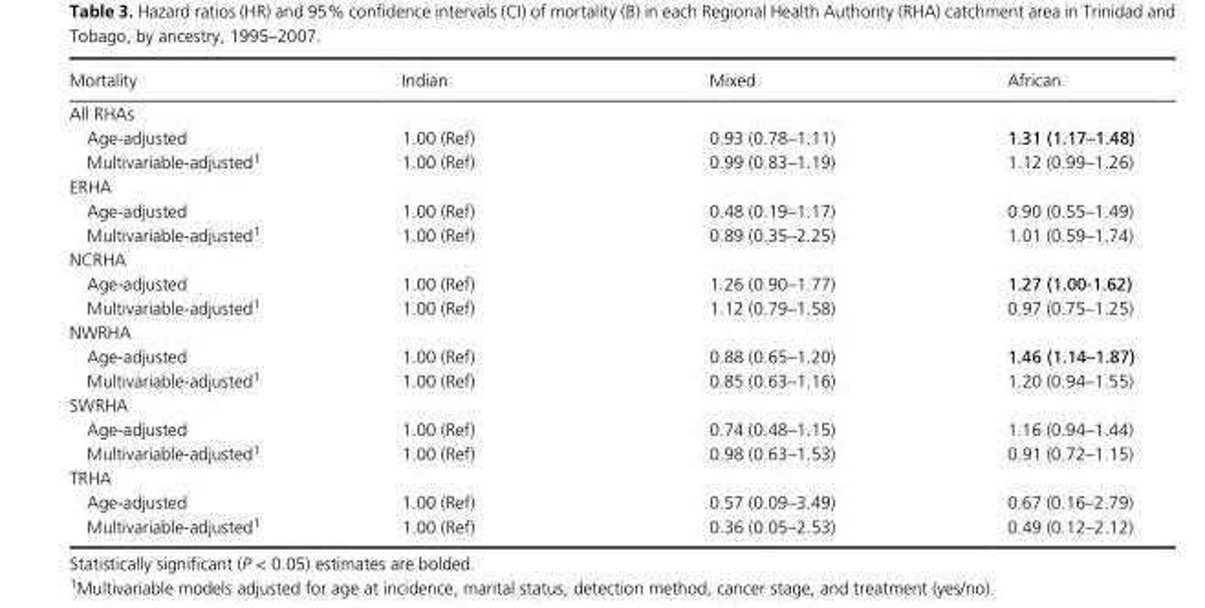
<table><thead><tr><td>Mortality</td><td>Indian</td><td>Mixed</td><td>African</td></tr></thead><tbody><tr><td colspan="4">All RHAs</td></tr><tr><td>Age- adjusted</td><td>1.00 (Ref)</td><td>0.93 (0.78–1.11)</td><td>1.31 (1.17–1.48)</td></tr><tr><td>Multivariable- adjusted1</td><td>1.00 (Ref)</td><td>0.99 (0.83–1.19)</td><td>1.12 (0.99–1.26)</td></tr><tr><td colspan="4">ERHA</td></tr><tr><td>Age- adjusted</td><td>1.00 (Ref)</td><td>0.48 (0.19–1.17)</td><td>0.90 (0.55–1.49)</td></tr><tr><td>Multivariable- adjusted1</td><td>1.00 (Ref)</td><td>0.89 (0.35–2.25)</td><td>1.01 (0.59–1.74)</td></tr><tr><td colspan="4">NCRHA</td></tr><tr><td>Age- adjusted</td><td>1.00 (Ref)</td><td>1.26 (0.90–1.77)</td><td>1.27 (1.00-1.62)</td></tr><tr><td>Multivariable- adjusted1</td><td>1.00 (Ref)</td><td>1.12 (0.79–1.58)</td><td>0.97 (0.75–1.25)</td></tr><tr><td colspan="4">NWRHA</td></tr><tr><td>Age- adjusted</td><td>1.00 (Ref)</td><td>0.88 (0.65–1.20)</td><td>1.46 (1.14–1.87)</td></tr><tr><td>Multivariable- adjusted1</td><td>1.00 (Ref)</td><td>0.85 (0.63–1.16)</td><td>1.20 (0.94–1.55)</td></tr><tr><td colspan="4">SWRHA</td></tr><tr><td>Age- adjusted</td><td>1.00 (Ref)</td><td>0.74 (0.48–1.15)</td><td>1.16 (0.94–1.44)</td></tr><tr><td>Multivariable- adjusted1</td><td>1.00 (Ref)</td><td>0.98 (0.63–1.53)</td><td>0.91 (0.72–1.15)</td></tr><tr><td colspan="4">TRHA</td></tr><tr><td>Age- adjusted</td><td>1.00 (Ref)</td><td>0.57 (0.09–3.49)</td><td>0.67 (0.16–2.79)</td></tr><tr><td>Multivariable- adjusted1</td><td>1.00 (Ref)</td><td>0.36 (0.05–2.53)</td><td>0.49 (0.12–2.12)</td></tr></tbody></table>